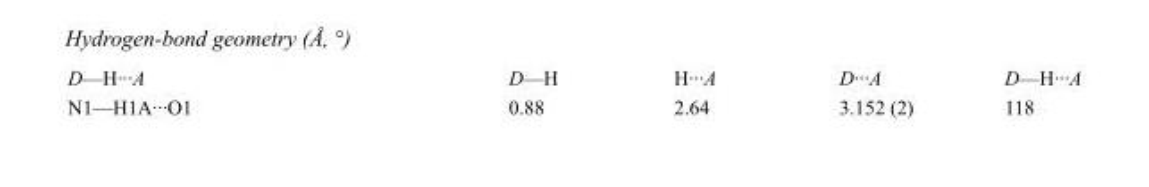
<table><tbody><tr><td>D—H···A</td><td>D—H</td><td>H···A</td><td>D···A</td><td>D—H···A</td></tr><tr><td>N1—H1A···O1</td><td>0.88</td><td>2.64</td><td>3.152 (2)</td><td>118</td></tr></tbody></table>